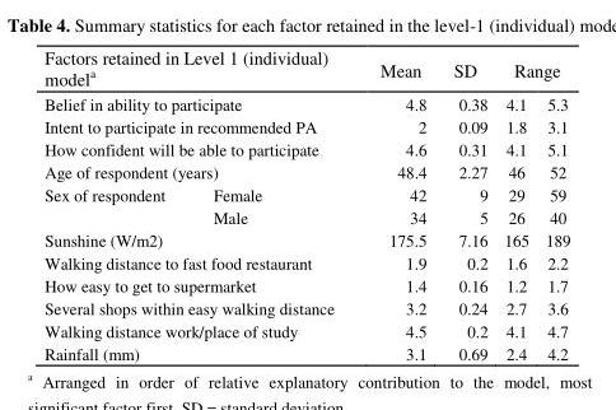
<table><thead><tr><td rowspan="2">Factors retained in Level 1 (individual) model<sup>a</sup> Belief in ability to participate</td><td rowspan="2">Mean 4.8</td><td rowspan="2">SD 0.38</td><td colspan="2">Range</td></tr><tr><td>4.1</td><td>5.3</td></tr></thead><tbody><tr><td>Intent to participate in recommended PA</td><td>2</td><td>0.09</td><td>1.8</td><td>3.1</td></tr><tr><td>How confident will be able to participate</td><td>4.6</td><td>0.31</td><td>4.1</td><td>5.1</td></tr><tr><td>Age of respondent (years)</td><td>48.4</td><td>2.27</td><td>46</td><td>52</td></tr><tr><td>Sex of respondent Female</td><td>42</td><td>9</td><td>29</td><td>59</td></tr><tr><td>Male</td><td>34</td><td>5</td><td>26</td><td>40</td></tr><tr><td>Sunshine (W/m2)</td><td>175.5</td><td>7.16</td><td>165</td><td>189</td></tr><tr><td>Walking distance to fast food restaurant</td><td>1.9</td><td>0.2</td><td>1.6</td><td>2.2</td></tr><tr><td>How easy to get to supermarket</td><td>1.4</td><td>0.16</td><td>1.2</td><td>1.7</td></tr><tr><td>Several shops within easy walking distance</td><td>3.2</td><td>0.24</td><td>2.7</td><td>3.6</td></tr><tr><td>Walking distance work/place of study</td><td>4.5</td><td>0.2</td><td>4.1</td><td>4.7</td></tr><tr><td>Rainfall (mm)</td><td>3.1</td><td>0.69</td><td>2.4</td><td>4.2</td></tr></tbody></table>